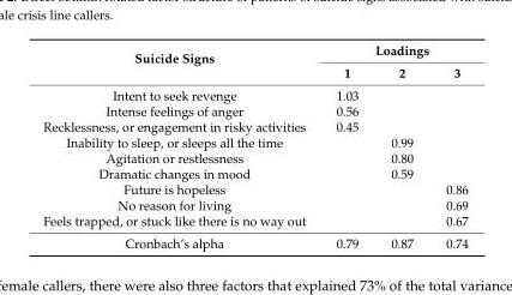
<table><thead><tr><td rowspan="2">Suicide Signs</td><td colspan="3">Loadings</td></tr><tr><td>1</td><td>2</td><td>3</td></tr></thead><tbody><tr><td>Intent to seek revenge</td><td>1.03</td><td></td><td></td></tr><tr><td>Intense feelings of anger</td><td>0.56</td><td></td><td></td></tr><tr><td>Recklessness, or engagement in risky activities</td><td>0.45</td><td></td><td></td></tr><tr><td>Inability to sleep, or sleeps all the time</td><td></td><td>0.99</td><td></td></tr><tr><td>Agitation or restlessness</td><td></td><td>0.80</td><td></td></tr><tr><td>Dramatic changes in mood</td><td></td><td>0.59</td><td></td></tr><tr><td>Future is hopeless</td><td></td><td></td><td>0.86</td></tr><tr><td>No reason for living</td><td></td><td></td><td>0.69</td></tr><tr><td>Feels trapped, or stuck like there is no way out</td><td></td><td></td><td>0.67</td></tr><tr><td>Cronbach’s alpha</td><td>0.79</td><td>0.87</td><td>0.74</td></tr></tbody></table>